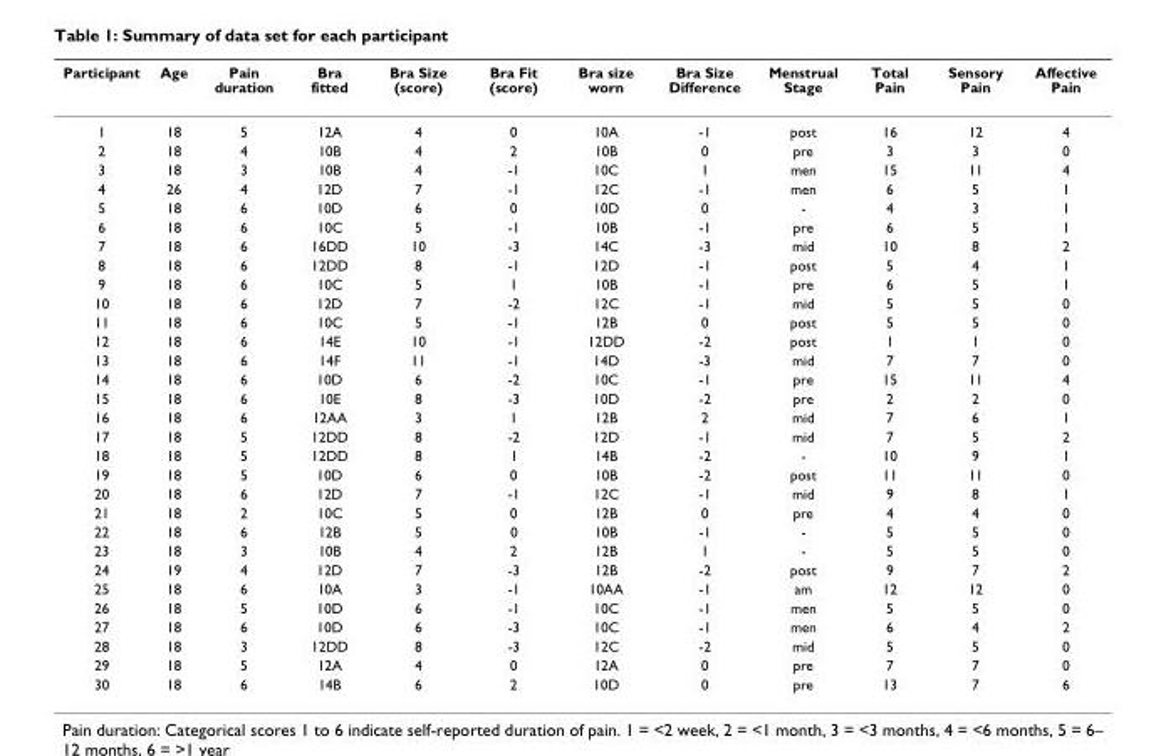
<table><thead><tr><td>Participant</td><td>Age</td><td>Pain duration</td><td>Bra fitted</td><td>Bra Size (score)</td><td>Bra Fit (score)</td><td>Bra size worn</td><td>Bra Size Difference</td><td>Menstrual Stage</td><td>Total Pain</td><td>Sensory Pain</td><td>Affective Pain</td></tr></thead><tbody><tr><td>1</td><td>18</td><td>5</td><td>12A</td><td>4</td><td>0</td><td>10A</td><td>-1</td><td>post</td><td>16</td><td>12</td><td>4</td></tr><tr><td>2</td><td>18</td><td>4</td><td>10B</td><td>4</td><td>2</td><td>10B</td><td>0</td><td>pre</td><td>3</td><td>3</td><td>0</td></tr><tr><td>3</td><td>18</td><td>3</td><td>10B</td><td>4</td><td>-1</td><td>10C</td><td>1</td><td>men</td><td>15</td><td>11</td><td>4</td></tr><tr><td>4</td><td>26</td><td>4</td><td>12D</td><td>7</td><td>-1</td><td>12C</td><td>-1</td><td>men</td><td>6</td><td>5</td><td>1</td></tr><tr><td>5</td><td>18</td><td>6</td><td>10D</td><td>6</td><td>0</td><td>10D</td><td>0</td><td>-</td><td>4</td><td>3</td><td>1</td></tr><tr><td>6</td><td>18</td><td>6</td><td>10C</td><td>5</td><td>-1</td><td>10B</td><td>-1</td><td>pre</td><td>6</td><td>5</td><td>1</td></tr><tr><td>7</td><td>18</td><td>6</td><td>16DD</td><td>10</td><td>-3</td><td>14C</td><td>-3</td><td>mid</td><td>10</td><td>8</td><td>2</td></tr><tr><td>8</td><td>18</td><td>6</td><td>12DD</td><td>8</td><td>-1</td><td>12D</td><td>-1</td><td>post</td><td>5</td><td>4</td><td>1</td></tr><tr><td>9</td><td>18</td><td>6</td><td>10C</td><td>5</td><td>1</td><td>10B</td><td>-1</td><td>pre</td><td>6</td><td>5</td><td>1</td></tr><tr><td>10</td><td>18</td><td>6</td><td>12D</td><td>7</td><td>-2</td><td>12C</td><td>-1</td><td>mid</td><td>5</td><td>5</td><td>0</td></tr><tr><td>11</td><td>18</td><td>6</td><td>10C</td><td>5</td><td>-1</td><td>12B</td><td>0</td><td>post</td><td>5</td><td>5</td><td>0</td></tr><tr><td>12</td><td>18</td><td>6</td><td>14E</td><td>10</td><td>-1</td><td>12DD</td><td>-2</td><td>post</td><td>1</td><td>1</td><td>0</td></tr><tr><td>13</td><td>18</td><td>6</td><td>14F</td><td>11</td><td>-1</td><td>14D</td><td>-3</td><td>mid</td><td>7</td><td>7</td><td>0</td></tr><tr><td>14</td><td>18</td><td>6</td><td>10D</td><td>6</td><td>-2</td><td>10C</td><td>-1</td><td>pre</td><td>15</td><td>11</td><td>4</td></tr><tr><td>15</td><td>18</td><td>6</td><td>10E</td><td>8</td><td>-3</td><td>10D</td><td>-2</td><td>pre</td><td>2</td><td>2</td><td>0</td></tr><tr><td>16</td><td>18</td><td>6</td><td>12AA</td><td>3</td><td>1</td><td>12B</td><td>2</td><td>mid</td><td>7</td><td>6</td><td>1</td></tr><tr><td>17</td><td>18</td><td>5</td><td>12DD</td><td>8</td><td>-2</td><td>12D</td><td>-1</td><td>mid</td><td>7</td><td>5</td><td>2</td></tr><tr><td>18</td><td>18</td><td>5</td><td>12DD</td><td>8</td><td>1</td><td>14B</td><td>-2</td><td>-</td><td>10</td><td>9</td><td>1</td></tr><tr><td>19</td><td>18</td><td>5</td><td>10D</td><td>6</td><td>0</td><td>10B</td><td>-2</td><td>post</td><td>11</td><td>11</td><td>0</td></tr><tr><td>20</td><td>18</td><td>6</td><td>12D</td><td>7</td><td>-1</td><td>12C</td><td>-1</td><td>mid</td><td>9</td><td>8</td><td>1</td></tr><tr><td>21</td><td>18</td><td>2</td><td>10C</td><td>5</td><td>0</td><td>12B</td><td>0</td><td>pre</td><td>4</td><td>4</td><td>0</td></tr><tr><td>22</td><td>18</td><td>6</td><td>12B</td><td>5</td><td>0</td><td>10B</td><td>-1</td><td>-</td><td>5</td><td>5</td><td>0</td></tr><tr><td>23</td><td>18</td><td>3</td><td>10B</td><td>4</td><td>2</td><td>12B</td><td>1</td><td>-</td><td>5</td><td>5</td><td>0</td></tr><tr><td>24</td><td>19</td><td>4</td><td>12D</td><td>7</td><td>-3</td><td>12B</td><td>-2</td><td>post</td><td>9</td><td>7</td><td>2</td></tr><tr><td>25</td><td>18</td><td>6</td><td>10A</td><td>3</td><td>-1</td><td>10AA</td><td>-1</td><td>am</td><td>12</td><td>12</td><td>0</td></tr><tr><td>26</td><td>18</td><td>5</td><td>10D</td><td>6</td><td>-1</td><td>10C</td><td>-1</td><td>men</td><td>5</td><td>5</td><td>0</td></tr><tr><td>27</td><td>18</td><td>6</td><td>10D</td><td>6</td><td>-3</td><td>10C</td><td>-1</td><td>men</td><td>6</td><td>4</td><td>2</td></tr><tr><td>28</td><td>18</td><td>3</td><td>12DD</td><td>8</td><td>-3</td><td>12C</td><td>-2</td><td>mid</td><td>5</td><td>5</td><td>0</td></tr><tr><td>29</td><td>18</td><td>5</td><td>12A</td><td>4</td><td>0</td><td>12A</td><td>0</td><td>pre</td><td>7</td><td>7</td><td>0</td></tr><tr><td>30</td><td>18</td><td>6</td><td>14B</td><td>6</td><td>2</td><td>10D</td><td>0</td><td>pre</td><td>13</td><td>7</td><td>6</td></tr></tbody></table>